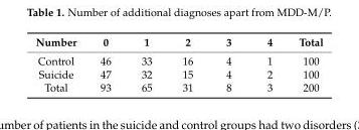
<table><thead><tr><td>Number</td><td>0</td><td>1</td><td>2</td><td>3</td><td>4</td><td>Total</td></tr></thead><tbody><tr><td>Control</td><td>46</td><td>33</td><td>16</td><td>4</td><td>1</td><td>100</td></tr><tr><td>Suicide</td><td>47</td><td>32</td><td>15</td><td>4</td><td>2</td><td>100</td></tr><tr><td>Total</td><td>93</td><td>65</td><td>31</td><td>8</td><td>3</td><td>200</td></tr></tbody></table>